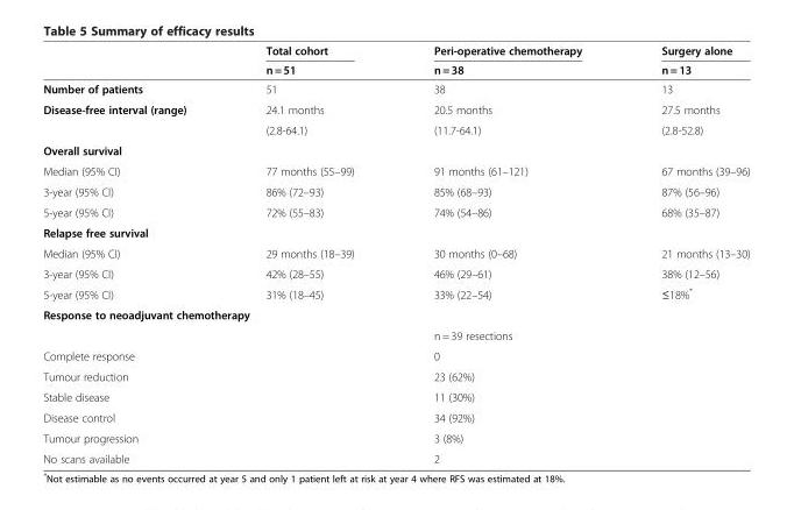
<table><thead><tr><td rowspan="2"></td><td rowspan="2">Total cohort n = 51</td><td rowspan="2">Peri-operative chemotherapy n = 38</td><td rowspan="2">Surgery alone n = 13</td></tr><tr></tr></thead><tbody><tr><td>Number of patients</td><td>51</td><td>38</td><td>13</td></tr><tr><td rowspan="2">Disease-free interval (range)</td><td>24.1 months</td><td>20.5 months</td><td>27.5 months</td></tr><tr><td>(2.8-64.1)</td><td>(11.7-64.1)</td><td>(2.8-52.8)</td></tr><tr><td colspan="4">Overall survival</td></tr><tr><td>Median (95% CI)</td><td>77 months (55–99)</td><td>91 months (61–121)</td><td>67 months (39–96)</td></tr><tr><td>3-year (95% CI)</td><td>86% (72–93)</td><td>85% (68–93)</td><td>87% (56–96)</td></tr><tr><td>5-year (95% CI)</td><td>72% (55–83)</td><td>74% (54–86)</td><td>68% (35–87)</td></tr><tr><td colspan="4">Relapse free survival</td></tr><tr><td>Median (95% CI)</td><td>29 months (18–39)</td><td>30 months (0–68)</td><td>21 months (13–30)</td></tr><tr><td>3-year (95% CI)</td><td>42% (28–55)</td><td>46% (29–61)</td><td>38% (12–56)</td></tr><tr><td>5-year (95% CI)</td><td>31% (18–45)</td><td>33% (22–54)</td><td>≤18%*</td></tr><tr><td colspan="4">Response to neoadjuvant chemotherapy</td></tr><tr><td></td><td></td><td>n = 39 resections</td><td></td></tr><tr><td>Complete response</td><td></td><td>0</td><td></td></tr><tr><td>Tumour reduction</td><td></td><td>23 (62%)</td><td></td></tr><tr><td>Stable disease</td><td></td><td>11 (30%)</td><td></td></tr><tr><td>Disease control</td><td></td><td>34 (92%)</td><td></td></tr><tr><td>Tumour progression</td><td></td><td>3 (8%)</td><td></td></tr><tr><td>No scans available</td><td></td><td>2</td><td></td></tr></tbody></table>